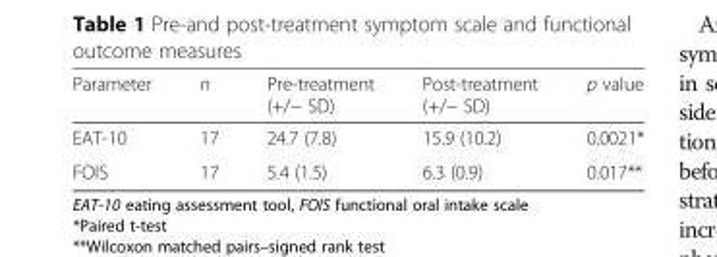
<table><thead><tr><td>Parameter</td><td>n</td><td>Pre-treatment (+/− SD)</td><td>Post-treatment (+/− SD)</td><td>p value</td></tr></thead><tbody><tr><td>EAT-10</td><td>17</td><td>24.7 (7.8)</td><td>15.9 (10.2)</td><td>0.0021*</td></tr><tr><td>FOIS</td><td>17</td><td>5.4 (1.5)</td><td>6.3 (0.9)</td><td>0.017**</td></tr></tbody></table>